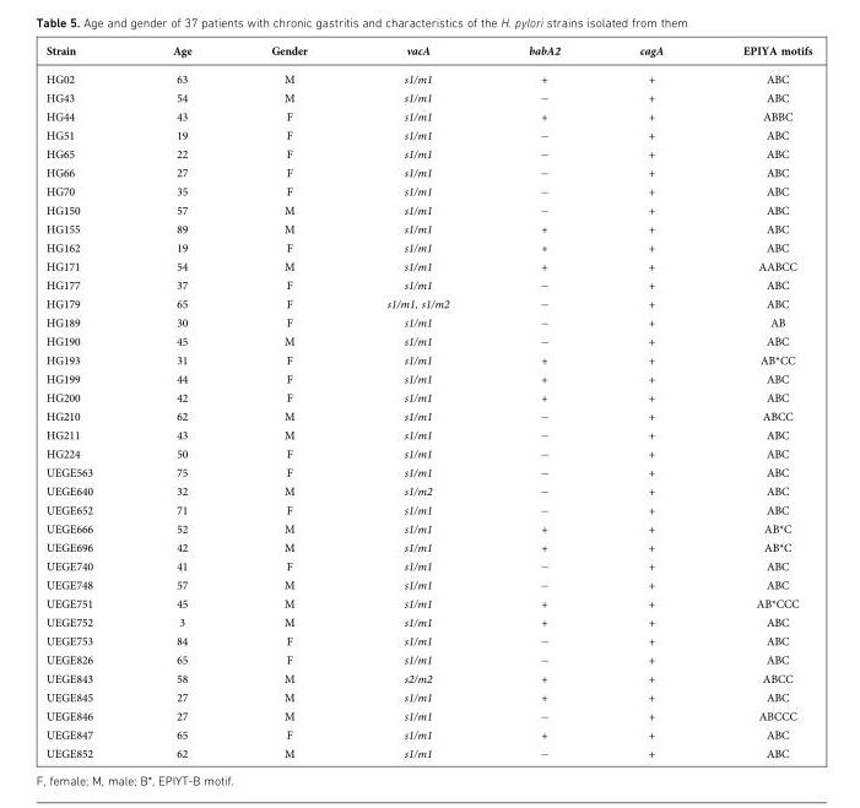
<table><thead><tr><td>Strain</td><td>Age</td><td>Gender</td><td>vacA</td><td>babA2</td><td>cagA</td><td>EPIYA motifs</td></tr></thead><tbody><tr><td>HG02</td><td>63</td><td>M</td><td>s1/m1</td><td>+</td><td>+</td><td>ABC</td></tr><tr><td>HG43</td><td>54</td><td>M</td><td>s1/m1</td><td>−</td><td>+</td><td>ABC</td></tr><tr><td>HG44</td><td>43</td><td>F</td><td>s1/m1</td><td>+</td><td>+</td><td>ABBC</td></tr><tr><td>HG51</td><td>19</td><td>F</td><td>s1/m1</td><td>−</td><td>+</td><td>ABC</td></tr><tr><td>HG65</td><td>22</td><td>F</td><td>s1/m1</td><td>−</td><td>+</td><td>ABC</td></tr><tr><td>HG66</td><td>27</td><td>F</td><td>s1/m1</td><td>−</td><td>+</td><td>ABC</td></tr><tr><td>HG70</td><td>35</td><td>F</td><td>s1/m1</td><td>−</td><td>+</td><td>ABC</td></tr><tr><td>HG150</td><td>57</td><td>M</td><td>s1/m1</td><td>−</td><td>+</td><td>ABC</td></tr><tr><td>HG155</td><td>89</td><td>M</td><td>s1/m1</td><td>+</td><td>+</td><td>ABC</td></tr><tr><td>HG162</td><td>19</td><td>F</td><td>s1/m1</td><td>+</td><td>+</td><td>ABC</td></tr><tr><td>HG171</td><td>54</td><td>M</td><td>s1/m1</td><td>+</td><td>+</td><td>AABCC</td></tr><tr><td>HG177</td><td>37</td><td>F</td><td>s1/m1</td><td>−</td><td>+</td><td>ABC</td></tr><tr><td>HG179</td><td>65</td><td>F</td><td>s1/m1, s1/m2</td><td>−</td><td>+</td><td>ABC</td></tr><tr><td>HG189</td><td>30</td><td>F</td><td>s1/m1</td><td>−</td><td>+</td><td>AB</td></tr><tr><td>HG190</td><td>45</td><td>M</td><td>s1/m1</td><td>−</td><td>+</td><td>ABC</td></tr><tr><td>HG193</td><td>31</td><td>F</td><td>s1/m1</td><td>+</td><td>+</td><td>AB*CC</td></tr><tr><td>HG199</td><td>44</td><td>F</td><td>s1/m1</td><td>+</td><td>+</td><td>ABC</td></tr><tr><td>HG200</td><td>42</td><td>F</td><td>s1/m1</td><td>+</td><td>+</td><td>ABC</td></tr><tr><td>HG210</td><td>62</td><td>M</td><td>s1/m1</td><td>−</td><td>+</td><td>ABCC</td></tr><tr><td>HG211</td><td>43</td><td>M</td><td>s1/m1</td><td>−</td><td>+</td><td>ABC</td></tr><tr><td>HG224</td><td>50</td><td>F</td><td>s1/m1</td><td>−</td><td>+</td><td>ABC</td></tr><tr><td>UEGE563</td><td>75</td><td>F</td><td>s1/m1</td><td>−</td><td>+</td><td>ABC</td></tr><tr><td>UEGE640</td><td>32</td><td>M</td><td>s1/m2</td><td>−</td><td>+</td><td>ABC</td></tr><tr><td>UEGE652</td><td>71</td><td>F</td><td>s1/m1</td><td>−</td><td>+</td><td>ABC</td></tr><tr><td>UEGE666</td><td>52</td><td>M</td><td>s1/m1</td><td>+</td><td>+</td><td>AB*C</td></tr><tr><td>UEGE696</td><td>42</td><td>M</td><td>s1/m1</td><td>+</td><td>+</td><td>AB*C</td></tr><tr><td>UEGE740</td><td>41</td><td>F</td><td>s1/m1</td><td>−</td><td>+</td><td>ABC</td></tr><tr><td>UEGE748</td><td>57</td><td>M</td><td>s1/m1</td><td>−</td><td>+</td><td>ABC</td></tr><tr><td>UEGE751</td><td>45</td><td>M</td><td>s1/m1</td><td>+</td><td>+</td><td>AB*CCC</td></tr><tr><td>UEGE752</td><td>3</td><td>M</td><td>s1/m1</td><td>+</td><td>+</td><td>ABC</td></tr><tr><td>UEGE753</td><td>84</td><td>F</td><td>s1/m1</td><td>−</td><td>+</td><td>ABC</td></tr><tr><td>UEGE826</td><td>65</td><td>F</td><td>s1/m1</td><td>−</td><td>+</td><td>ABC</td></tr><tr><td>UEGE843</td><td>58</td><td>M</td><td>s2/m2</td><td>+</td><td>+</td><td>ABCC</td></tr><tr><td>UEGE845</td><td>27</td><td>M</td><td>s1/m1</td><td>+</td><td>+</td><td>ABC</td></tr><tr><td>UEGE846</td><td>27</td><td>M</td><td>s1/m1</td><td>−</td><td>+</td><td>ABCCC</td></tr><tr><td>UEGE847</td><td>65</td><td>F</td><td>s1/m1</td><td>+</td><td>+</td><td>ABC</td></tr><tr><td>UEGE852</td><td>62</td><td>M</td><td>s1/m1</td><td>−</td><td>+</td><td>ABC</td></tr></tbody></table>